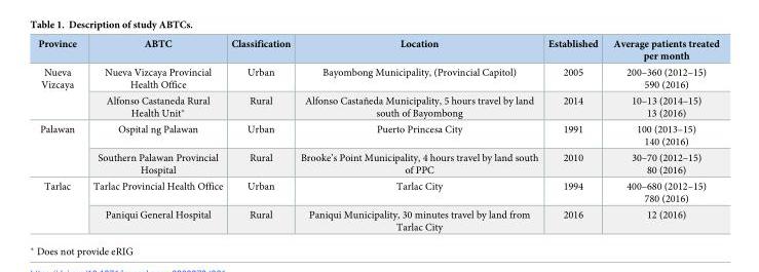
<table><thead><tr><td>Province</td><td>ABTC</td><td>Classification</td><td>Location</td><td>Established</td><td>Average patients treated per month</td></tr></thead><tbody><tr><td rowspan="2">Nueva Vizcaya</td><td>Nueva Vizcaya Provincial Health Office</td><td>Urban</td><td>Bayombong Municipality, (Provincial Capitol)</td><td>2005</td><td>200–360 (2012–15) 590 (2016)</td></tr><tr><td>Alfonso Castaneda Rural Health Unit*</td><td>Rural</td><td>Alfonso Castañeda Municipality, 5 hours travel by land south of Bayombong</td><td>2014</td><td>10–13 (2014–15) 13 (2016)</td></tr><tr><td rowspan="2">Palawan</td><td>Ospital ng Palawan</td><td>Urban</td><td>Puerto Princesa City</td><td>1991</td><td>100 (2013–15) 140 (2016)</td></tr><tr><td>Southern Palawan Provincial Hospital</td><td>Rural</td><td>Brooke’s Point Municipality, 4 hours travel by land south of PPC</td><td>2010</td><td>30–70 (2012–15) 80 (2016)</td></tr><tr><td rowspan="2">Tarlac</td><td>Tarlac Provincial Health Office</td><td>Urban</td><td>Tarlac City</td><td>1994</td><td>400–680 (2012–15) 780 (2016)</td></tr><tr><td>Paniqui General Hospital</td><td>Rural</td><td>Paniqui Municipality, 30 minutes travel by land from Tarlac City</td><td>2016</td><td>12 (2016)</td></tr></tbody></table>